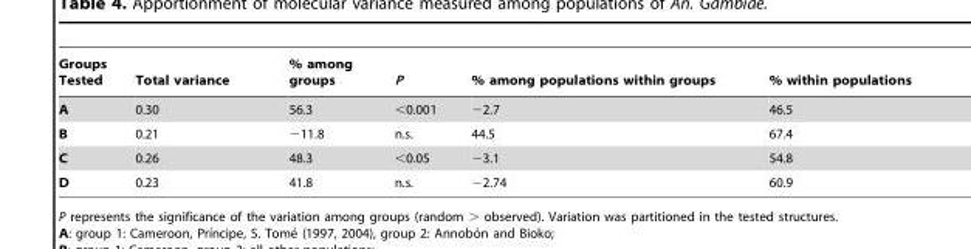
<table><thead><tr><td>Groups Tested</td><td>Total variance</td><td>% among groups</td><td>P</td><td>% among populations within groups</td><td>% within populations</td></tr></thead><tbody><tr><td>A</td><td>0.30</td><td>56.3</td><td>&lt;0.001</td><td>−2.7</td><td>46.5</td></tr><tr><td>B</td><td>0.21</td><td>−11.8</td><td>n.s.</td><td>44.5</td><td>67.4</td></tr><tr><td>C</td><td>0.26</td><td>48.3</td><td>&lt;0.05</td><td>−3.1</td><td>54.8</td></tr><tr><td>D</td><td>0.23</td><td>41.8</td><td>n.s.</td><td>−2.74</td><td>60.9</td></tr></tbody></table>